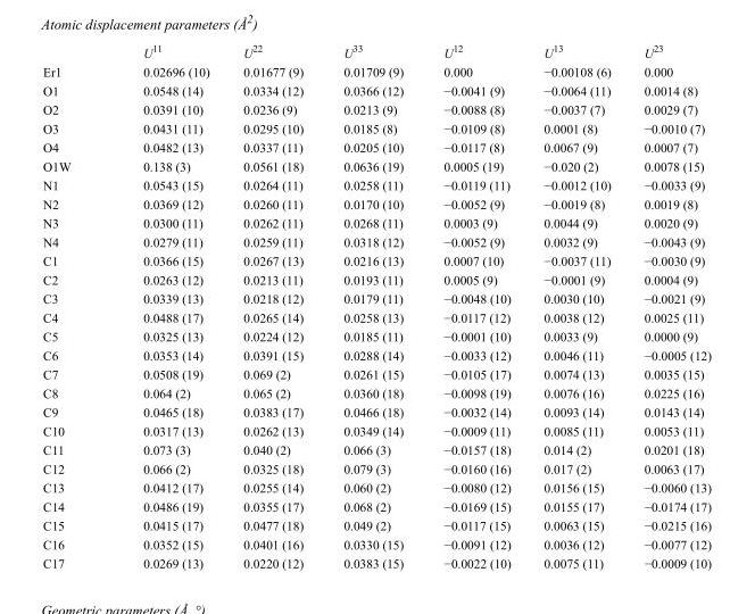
<table><thead><tr><td></td><td>U<sup>11</sup></td><td>U<sup>22</sup></td><td>U<sup>33</sup></td><td>U<sup>12</sup></td><td>U<sup>13</sup></td><td>U<sup>23</sup></td></tr></thead><tbody><tr><td>Er1</td><td>0.02696 (10)</td><td>0.01677 (9)</td><td>0.01709 (9)</td><td>0.000</td><td>−0.00108 (6)</td><td>0.000</td></tr><tr><td>O1</td><td>0.0548 (14)</td><td>0.0334 (12)</td><td>0.0366 (12)</td><td>−0.0041 (9)</td><td>−0.0064 (11)</td><td>0.0014 (8)</td></tr><tr><td>O2</td><td>0.0391 (10)</td><td>0.0236 (9)</td><td>0.0213 (9)</td><td>−0.0088 (8)</td><td>−0.0037 (7)</td><td>0.0029 (7)</td></tr><tr><td>O3</td><td>0.0431 (11)</td><td>0.0295 (10)</td><td>0.0185 (8)</td><td>−0.0109 (8)</td><td>0.0001 (8)</td><td>−0.0010 (7)</td></tr><tr><td>O4</td><td>0.0482 (13)</td><td>0.0337 (11)</td><td>0.0205 (10)</td><td>−0.0117 (8)</td><td>0.0067 (9)</td><td>0.0007 (7)</td></tr><tr><td>O1W</td><td>0.138 (3)</td><td>0.0561 (18)</td><td>0.0636 (19)</td><td>0.0005 (19)</td><td>−0.020 (2)</td><td>0.0078 (15)</td></tr><tr><td>N1</td><td>0.0543 (15)</td><td>0.0264 (11)</td><td>0.0258 (11)</td><td>−0.0119 (11)</td><td>−0.0012 (10)</td><td>−0.0033 (9)</td></tr><tr><td>N2</td><td>0.0369 (12)</td><td>0.0260 (11)</td><td>0.0170 (10)</td><td>−0.0052 (9)</td><td>−0.0019 (8)</td><td>0.0019 (8)</td></tr><tr><td>N3</td><td>0.0300 (11)</td><td>0.0262 (11)</td><td>0.0268 (11)</td><td>0.0003 (9)</td><td>0.0044 (9)</td><td>0.0020 (9)</td></tr><tr><td>N4</td><td>0.0279 (11)</td><td>0.0259 (11)</td><td>0.0318 (12)</td><td>−0.0052 (9)</td><td>0.0032 (9)</td><td>−0.0043 (9)</td></tr><tr><td>C1</td><td>0.0366 (15)</td><td>0.0267 (13)</td><td>0.0216 (13)</td><td>0.0007 (10)</td><td>−0.0037 (11)</td><td>−0.0030 (9)</td></tr><tr><td>C2</td><td>0.0263 (12)</td><td>0.0213 (11)</td><td>0.0193 (11)</td><td>0.0005 (9)</td><td>−0.0001 (9)</td><td>0.0004 (9)</td></tr><tr><td>C3</td><td>0.0339 (13)</td><td>0.0218 (12)</td><td>0.0179 (11)</td><td>−0.0048 (10)</td><td>0.0030 (10)</td><td>−0.0021 (9)</td></tr><tr><td>C4</td><td>0.0488 (17)</td><td>0.0265 (14)</td><td>0.0258 (13)</td><td>−0.0117 (12)</td><td>0.0038 (12)</td><td>0.0025 (11)</td></tr><tr><td>C5</td><td>0.0325 (13)</td><td>0.0224 (12)</td><td>0.0185 (11)</td><td>−0.0001 (10)</td><td>0.0033 (9)</td><td>0.0000 (9)</td></tr><tr><td>C6</td><td>0.0353 (14)</td><td>0.0391 (15)</td><td>0.0288 (14)</td><td>−0.0033 (12)</td><td>0.0046 (11)</td><td>−0.0005 (12)</td></tr><tr><td>C7</td><td>0.0508 (19)</td><td>0.069 (2)</td><td>0.0261 (15)</td><td>−0.0105 (17)</td><td>0.0074 (13)</td><td>0.0035 (15)</td></tr><tr><td>C8</td><td>0.064 (2)</td><td>0.065 (2)</td><td>0.0360 (18)</td><td>−0.0098 (19)</td><td>0.0076 (16)</td><td>0.0225 (16)</td></tr><tr><td>C9</td><td>0.0465 (18)</td><td>0.0383 (17)</td><td>0.0466 (18)</td><td>−0.0032 (14)</td><td>0.0093 (14)</td><td>0.0143 (14)</td></tr><tr><td>C10</td><td>0.0317 (13)</td><td>0.0262 (13)</td><td>0.0349 (14)</td><td>−0.0009 (11)</td><td>0.0085 (11)</td><td>0.0053 (11)</td></tr><tr><td>C11</td><td>0.073 (3)</td><td>0.040 (2)</td><td>0.066 (3)</td><td>−0.0157 (18)</td><td>0.014 (2)</td><td>0.0201 (18)</td></tr><tr><td>C12</td><td>0.066 (2)</td><td>0.0325 (18)</td><td>0.079 (3)</td><td>−0.0160 (16)</td><td>0.017 (2)</td><td>0.0063 (17)</td></tr><tr><td>C13</td><td>0.0412 (17)</td><td>0.0255 (14)</td><td>0.060 (2)</td><td>−0.0080 (12)</td><td>0.0156 (15)</td><td>−0.0060 (13)</td></tr><tr><td>C14</td><td>0.0486 (19)</td><td>0.0355 (17)</td><td>0.068 (2)</td><td>−0.0169 (15)</td><td>0.0155 (17)</td><td>−0.0174 (17)</td></tr><tr><td>C15</td><td>0.0415 (17)</td><td>0.0477 (18)</td><td>0.049 (2)</td><td>−0.0117 (15)</td><td>0.0063 (15)</td><td>−0.0215 (16)</td></tr><tr><td>C16</td><td>0.0352 (15)</td><td>0.0401 (16)</td><td>0.0330 (15)</td><td>−0.0091 (12)</td><td>0.0036 (12)</td><td>−0.0077 (12)</td></tr><tr><td>C17</td><td>0.0269 (13)</td><td>0.0220 (12)</td><td>0.0383 (15)</td><td>−0.0022 (10)</td><td>0.0075 (11)</td><td>−0.0009 (10)</td></tr></tbody></table>